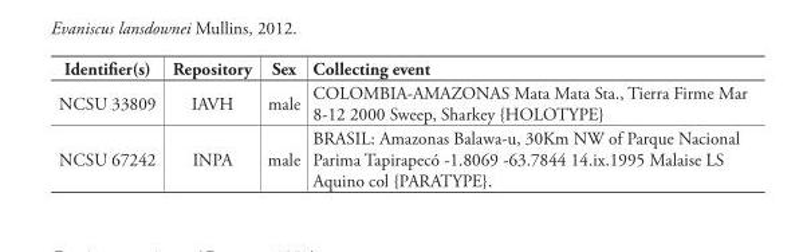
<table><thead><tr><td>Identifier(s)</td><td>Repository</td><td>Sex</td><td>Collecting event</td></tr></thead><tbody><tr><td>NCSU 33809</td><td>IAVH</td><td>male</td><td>COLOMBIA-AMAZONAS Mata Mata Sta., Tierra Firme Mar 8-12 2000 Sweep, Sharkey {HOLOTYPE}</td></tr><tr><td>NCSU 67242</td><td>INPA</td><td>male</td><td>BRASIL: Amazonas Balawa-u, 30Km NW of Parque Nacional Parima Tapirapecó -1.8069 -63.7844 14.ix.1995 Malaise LS Aquino col {PARATYPE}.</td></tr></tbody></table>